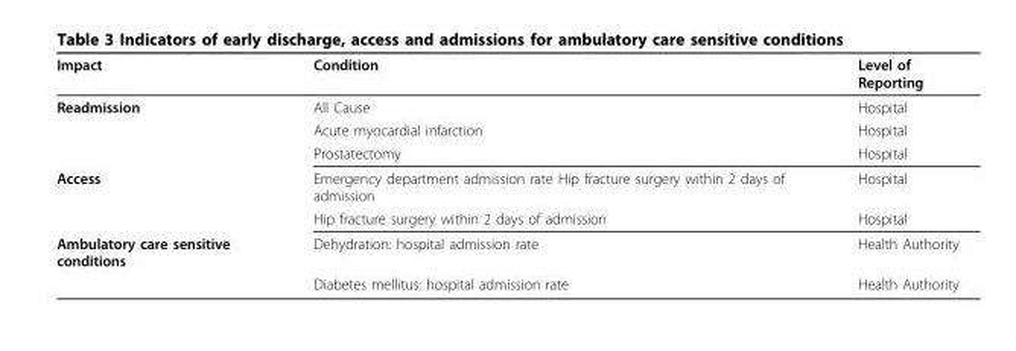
<table><thead><tr><td>Impact</td><td>Condition</td><td>Level of Reporting</td></tr></thead><tbody><tr><td rowspan="3">Readmission</td><td>All Cause</td><td>Hospital</td></tr><tr><td>Acute myocardial infarction</td><td>Hospital</td></tr><tr><td>Prostatectomy</td><td>Hospital</td></tr><tr><td rowspan="2">Access</td><td>Emergency department admission rate Hip fracture surgery within 2 days of admission</td><td>Hospital</td></tr><tr><td>Hip fracture surgery within 2 days of admission</td><td>Hospital</td></tr><tr><td rowspan="2">Ambulatory care sensitive conditions</td><td>Dehydration: hospital admission rate</td><td>Health Authority</td></tr><tr><td>Diabetes mellitus: hospital admission rate</td><td>Health Authority</td></tr></tbody></table>